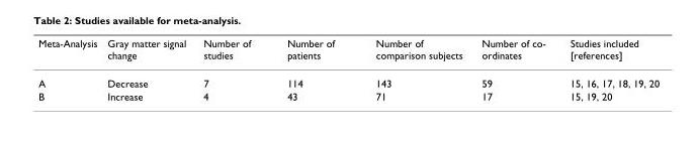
<table><thead><tr><td>Meta-Analysis</td><td>Gray matter signal change</td><td>Number of studies</td><td>Number of patients</td><td>Number of comparison subjects</td><td>Number of co- ordinates</td><td>Studies included [references]</td></tr></thead><tbody><tr><td>A</td><td>Decrease</td><td>7</td><td>114</td><td>143</td><td>59</td><td>15, 16, 17, 18, 19, 20</td></tr><tr><td>B</td><td>Increase</td><td>4</td><td>43</td><td>71</td><td>17</td><td>15, 19, 20</td></tr></tbody></table>